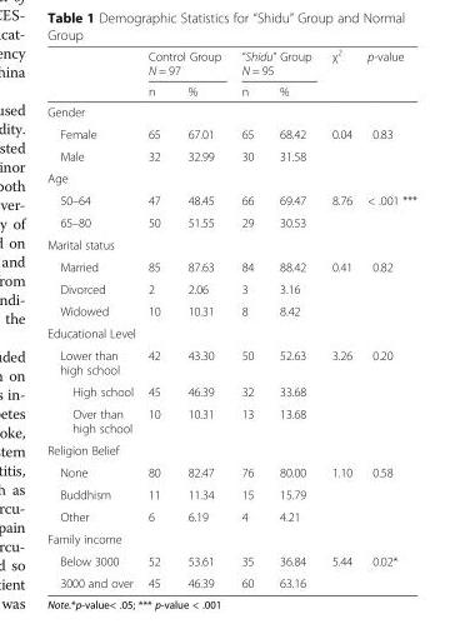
<table><thead><tr><td rowspan="2"></td><td colspan="2">Control Group N = 97</td><td colspan="2">“Shidu” Group N = 95</td><td rowspan="2">χ<sup>2</sup></td><td rowspan="2">p-value</td></tr><tr><td>n</td><td>%</td><td>n</td><td>%</td></tr></thead><tbody><tr><td colspan="7">Gender</td></tr><tr><td>Female</td><td>65</td><td>67.01</td><td>65</td><td>68.42</td><td>0.04</td><td>0.83</td></tr><tr><td>Male</td><td>32</td><td>32.99</td><td>30</td><td>31.58</td><td></td><td></td></tr><tr><td colspan="7">Age</td></tr><tr><td>50–64</td><td>47</td><td>48.45</td><td>66</td><td>69.47</td><td>8.76</td><td>&lt; .001 ***</td></tr><tr><td>65–80</td><td>50</td><td>51.55</td><td>29</td><td>30.53</td><td></td><td></td></tr><tr><td colspan="7">Marital status</td></tr><tr><td>Married</td><td>85</td><td>87.63</td><td>84</td><td>88.42</td><td>0.41</td><td>0.82</td></tr><tr><td>Divorced</td><td>2</td><td>2.06</td><td>3</td><td>3.16</td><td></td><td></td></tr><tr><td>Widowed</td><td>10</td><td>10.31</td><td>8</td><td>8.42</td><td></td><td></td></tr><tr><td colspan="7">Educational Level</td></tr><tr><td>Lower than high school</td><td>42</td><td>43.30</td><td>50</td><td>52.63</td><td>3.26</td><td>0.20</td></tr><tr><td>High school</td><td>45</td><td>46.39</td><td>32</td><td>33.68</td><td></td><td></td></tr><tr><td>Over than high school</td><td>10</td><td>10.31</td><td>13</td><td>13.68</td><td></td><td></td></tr><tr><td colspan="7">Religion Belief</td></tr><tr><td>None</td><td>80</td><td>82.47</td><td>76</td><td>80.00</td><td>1.10</td><td>0.58</td></tr><tr><td>Buddhism</td><td>11</td><td>11.34</td><td>15</td><td>15.79</td><td></td><td></td></tr><tr><td>Other</td><td>6</td><td>6.19</td><td>4</td><td>4.21</td><td></td><td></td></tr><tr><td colspan="7">Family income</td></tr><tr><td>Below 3000</td><td>52</td><td>53.61</td><td>35</td><td>36.84</td><td>5.44</td><td>0.02*</td></tr><tr><td>3000 and over</td><td>45</td><td>46.39</td><td>60</td><td>63.16</td><td></td><td></td></tr></tbody></table>